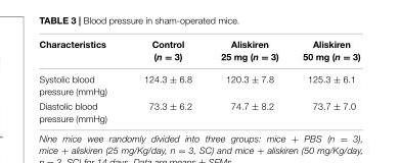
<table><thead><tr><td>Characteristics</td><td>Control (n = 3)</td><td>Aliskiren 25 mg (n = 3)</td><td>Aliskiren 50 mg (n = 3)</td></tr></thead><tbody><tr><td>Systolic blood pressure (mmHg)</td><td>124.3 ± 6.8</td><td>120.3 ± 7.8</td><td>125.3 ± 6.1</td></tr><tr><td>Diastolic blood pressure (mmHg)</td><td>73.3 ± 6.2</td><td>74.7 ± 8.2</td><td>73.7 ± 7.0</td></tr></tbody></table>